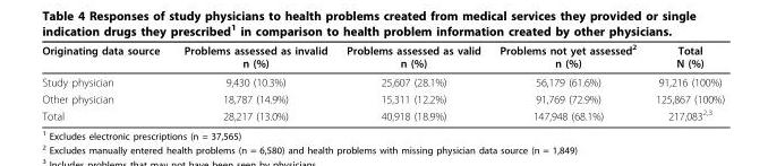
<table><tbody><tr><td>Originating data source</td><td>Problems assessed as invalid n (%)</td><td>Problems assessed as valid n (%)</td><td>Problems not yet assessed<sup>2</sup> n (%)</td><td>Total N (%)</td></tr><tr><td>Study physician</td><td>9,430 (10.3%)</td><td>25,607 (28.1%)</td><td>56,179 (61.6%)</td><td>91,216 (100%)</td></tr><tr><td>Other physician</td><td>18,787 (14.9%)</td><td>15,311 (12.2%)</td><td>91,769 (72.9%)</td><td>125,867 (100%)</td></tr><tr><td>Total</td><td>28,217 (13.0%)</td><td>40,918 (18.9%)</td><td>147,948 (68.1%)</td><td>217,083<sup>2,3</sup></td></tr></tbody></table>